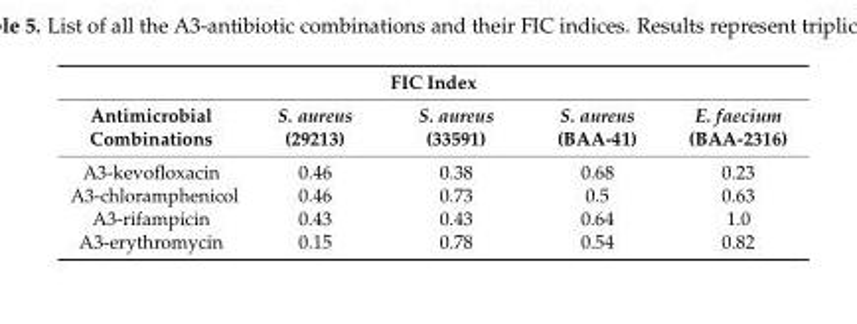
<table><thead><tr><td colspan="5">FIC Index</td></tr><tr><td>Antimicrobial Combinations</td><td>S. aureus (29213)</td><td>S. aureus (33591)</td><td>S. aureus (BAA-41)</td><td>E. faecium (BAA-2316)</td></tr></thead><tbody><tr><td>A3-kevofloxacin</td><td>0.46</td><td>0.38</td><td>0.68</td><td>0.23</td></tr><tr><td>A3-chloramphenicol</td><td>0.46</td><td>0.73</td><td>0.5</td><td>0.63</td></tr><tr><td>A3-rifampicin</td><td>0.43</td><td>0.43</td><td>0.64</td><td>1.0</td></tr><tr><td>A3-erythromycin</td><td>0.15</td><td>0.78</td><td>0.54</td><td>0.82</td></tr></tbody></table>